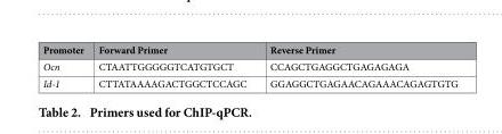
<table><thead><tr><td>Promoter</td><td>Forward Primer</td><td>Reverse Primer</td></tr></thead><tbody><tr><td>Ocn</td><td>CTAATTGGGGGTCATGTGCT</td><td>CCAGCTGAGGCTGAGAGAGA</td></tr><tr><td>Id-1</td><td>CTTATAAAAGACTGGCTCCAGC</td><td>GGAGGCTGAGAACAGAAACAGAGTGTG</td></tr></tbody></table>